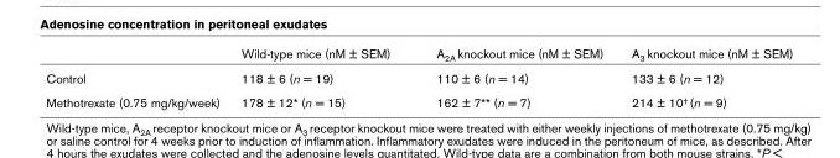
<table><thead><tr><td></td><td>Wild-type mice (nM ± SEM)</td><td>A2A knockout mice (nM ± SEM)</td><td>A3 knockout mice (nM ± SEM)</td></tr></thead><tbody><tr><td>Control</td><td>118 ± 6 (n = 19)</td><td>110 ± 6 (n = 14)</td><td>133 ± 6 (n = 12)</td></tr><tr><td>Methotrexate (0.75 mg/kg/week)</td><td>178 ± 12* (n = 15)</td><td>162 ± 7** (n = 7)</td><td>214 ± 10† (n = 9)</td></tr></tbody></table>